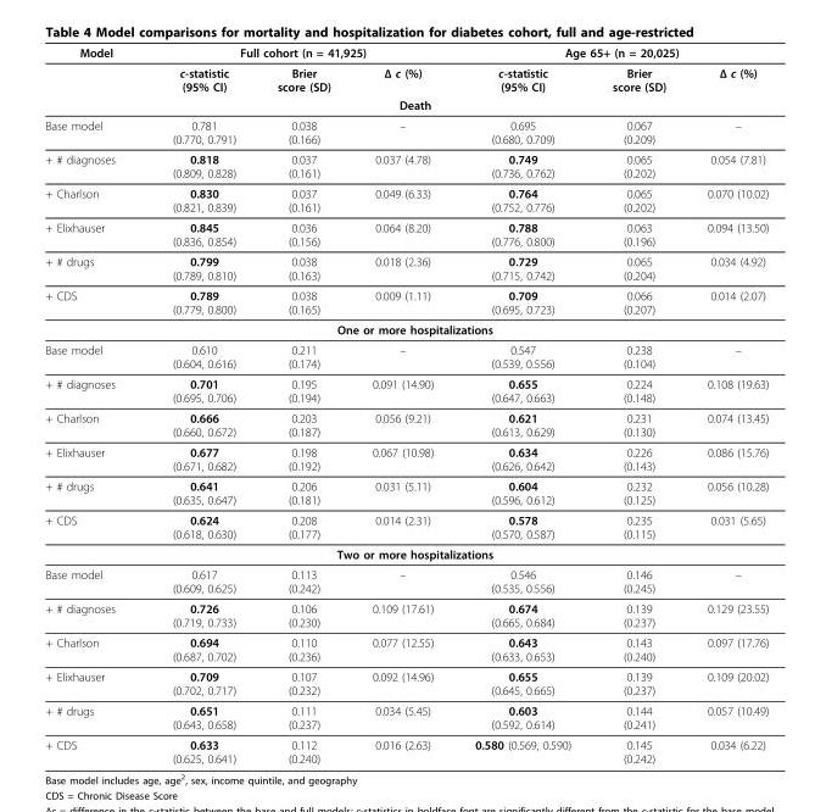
<table><thead><tr><td rowspan="2">Model</td><td colspan="3">Full cohort (n = 41,925)</td><td colspan="3">Age 65+ (n = 20,025)</td></tr><tr><td>c-statistic (95% CI)</td><td>Brier score (SD)</td><td>Δ c (%)</td><td>c-statistic (95% CI)</td><td>Brier score (SD)</td><td>Δ c (%)</td></tr></thead><tbody><tr><td colspan="7">Death</td></tr><tr><td>Base model</td><td>0.781 (0.770, 0.791)</td><td>0.038 (0.166)</td><td>–</td><td>0.695 (0.680, 0.709)</td><td>0.067 (0.209)</td><td>–</td></tr><tr><td>+ # diagnoses</td><td>0.818 (0.809, 0.828)</td><td>0.037 (0.161)</td><td>0.037 (4.78)</td><td>0.749 (0.736, 0.762)</td><td>0.065 (0.202)</td><td>0.054 (7.81)</td></tr><tr><td>+ Charlson</td><td>0.830 (0.821, 0.839)</td><td>0.037 (0.161)</td><td>0.049 (6.33)</td><td>0.764 (0.752, 0.776)</td><td>0.065 (0.202)</td><td>0.070 (10.02)</td></tr><tr><td>+ Elixhauser</td><td>0.845 (0.836, 0.854)</td><td>0.036 (0.156)</td><td>0.064 (8.20)</td><td>0.788 (0.776, 0.800)</td><td>0.063 (0.196)</td><td>0.094 (13.50)</td></tr><tr><td>+ # drugs</td><td>0.799 (0.789, 0.810)</td><td>0.038 (0.163)</td><td>0.018 (2.36)</td><td>0.729 (0.715, 0.742)</td><td>0.065 (0.204)</td><td>0.034 (4.92)</td></tr><tr><td>+ CDS</td><td>0.789 (0.779, 0.800)</td><td>0.038 (0.165)</td><td>0.009 (1.11)</td><td>0.709 (0.695, 0.723)</td><td>0.066 (0.207)</td><td>0.014 (2.07)</td></tr><tr><td colspan="7">One or more hospitalizations</td></tr><tr><td>Base model</td><td>0.610 (0.604, 0.616)</td><td>0.211 (0.174)</td><td>–</td><td>0.547 (0.539, 0.556)</td><td>0.238 (0.104)</td><td>–</td></tr><tr><td>+ # diagnoses</td><td>0.701 (0.695, 0.706)</td><td>0.195 (0.194)</td><td>0.091 (14.90)</td><td>0.655 (0.647, 0.663)</td><td>0.224 (0.148)</td><td>0.108 (19.63)</td></tr><tr><td>+ Charlson</td><td>0.666 (0.660, 0.672)</td><td>0.203 (0.187)</td><td>0.056 (9.21)</td><td>0.621 (0.613, 0.629)</td><td>0.231 (0.130)</td><td>0.074 (13.45)</td></tr><tr><td>+ Elixhauser</td><td>0.677 (0.671, 0.682)</td><td>0.198 (0.192)</td><td>0.067 (10.98)</td><td>0.634 (0.626, 0.642)</td><td>0.226 (0.143)</td><td>0.086 (15.76)</td></tr><tr><td>+ # drugs</td><td>0.641 (0.635, 0.647)</td><td>0.206 (0.181)</td><td>0.031 (5.11)</td><td>0.604 (0.596, 0.612)</td><td>0.232 (0.125)</td><td>0.056 (10.28)</td></tr><tr><td>+ CDS</td><td>0.624 (0.618, 0.630)</td><td>0.208 (0.177)</td><td>0.014 (2.31)</td><td>0.578 (0.570, 0.587)</td><td>0.235 (0.115)</td><td>0.031 (5.65)</td></tr><tr><td colspan="7">Two or more hospitalizations</td></tr><tr><td>Base model</td><td>0.617 (0.609, 0.625)</td><td>0.113 (0.242)</td><td>–</td><td>0.546 (0.535, 0.556)</td><td>0.146 (0.245)</td><td>–</td></tr><tr><td>+ # diagnoses</td><td>0.726 (0.719, 0.733)</td><td>0.106 (0.230)</td><td>0.109 (17.61)</td><td>0.674 (0.665, 0.684)</td><td>0.139 (0.237)</td><td>0.129 (23.55)</td></tr><tr><td>+ Charlson</td><td>0.694 (0.687, 0.702)</td><td>0.110 (0.236)</td><td>0.077 (12.55)</td><td>0.643 (0.633, 0.653)</td><td>0.143 (0.240)</td><td>0.097 (17.76)</td></tr><tr><td>+ Elixhauser</td><td>0.709 (0.702, 0.717)</td><td>0.107 (0.232)</td><td>0.092 (14.96)</td><td>0.655 (0.645, 0.665)</td><td>0.139 (0.237)</td><td>0.109 (20.02)</td></tr><tr><td>+ # drugs</td><td>0.651 (0.643, 0.658)</td><td>0.111 (0.237)</td><td>0.034 (5.45)</td><td>0.603 (0.592, 0.614)</td><td>0.144 (0.241)</td><td>0.057 (10.49)</td></tr><tr><td>+ CDS</td><td>0.633 (0.625, 0.641)</td><td>0.112 (0.240)</td><td>0.016 (2.63)</td><td>0.580 (0.569, 0.590)</td><td>0.145 (0.242)</td><td>0.034 (6.22)</td></tr></tbody></table>